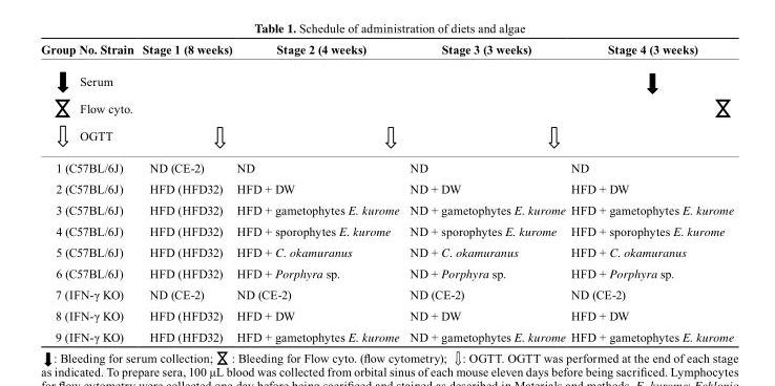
<table><thead><tr><td>Group No. strain</td><td>Stage 1 (8 weeks)</td><td>Stage 2 (4 weeks)</td><td>Stage 3 (3 weeks)</td><td>Stage 4 (3 weeks)</td></tr></thead><tbody><tr><td colspan="5">Serum</td></tr><tr><td colspan="5">Flow cyto.</td></tr><tr><td colspan="5">OGTT</td></tr><tr><td>1 (C57BL/6J)</td><td>ND (CE-2)</td><td>ND</td><td>ND</td><td>ND</td></tr><tr><td>2 (C57BL/6J)</td><td>HFD (HFD32)</td><td>HFD + DW</td><td>ND + DW</td><td>HFD + DW</td></tr><tr><td>3 (C57BL/6J)</td><td>HFD (HFD32)</td><td>HFD + gametophytes E. kurome</td><td>ND + gametophytes E. kurome</td><td>HFD + gametophytes E. kurome</td></tr><tr><td>4 (C57BL/6J)</td><td>HFD (HFD32)</td><td>HFD + sporophytes E. kurome</td><td>ND + sporophytes E. kurome</td><td>HFD + sporophytes E. kurome</td></tr><tr><td>5 (C57BL/6J)</td><td>HFD (HFD32)</td><td>HFD + C. okamuranus</td><td>ND + C. okamuranus</td><td>HFD + C. okamuranus</td></tr><tr><td>6 (C57BL/6J)</td><td>HFD (HFD32)</td><td>HFD + Porphyra sp.</td><td>ND + Porphyra sp.</td><td>HFD + Porphyra sp.</td></tr><tr><td>7 (IFN-γ KO)</td><td>ND (CE-2)</td><td>ND (CE-2)</td><td>ND (CE-2)</td><td>ND (CE-2)</td></tr><tr><td>8 (IFN-γ KO)</td><td>HFD (HFD32)</td><td>HFD + DW</td><td>ND + DW</td><td>HFD + DW</td></tr><tr><td>9 (IFN-γ KO)</td><td>HFD (HFD32)</td><td>HFD + gametophytes E. kurome</td><td>ND + gametophytes E. kurome</td><td>HFD + gametophytes E. kurome</td></tr></tbody></table>